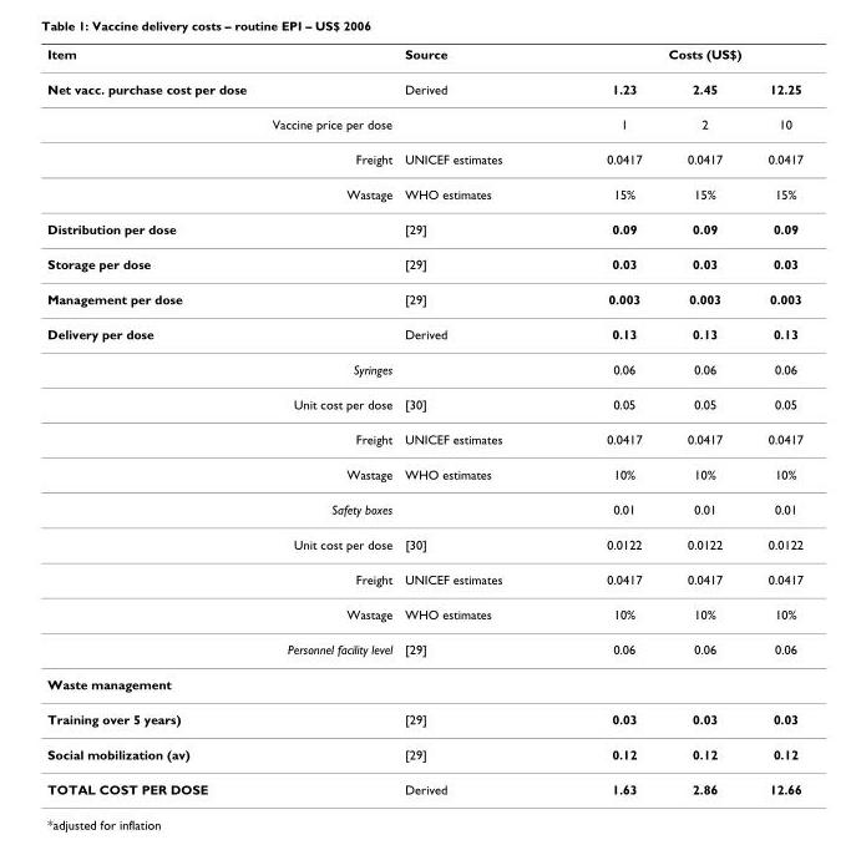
<table><thead><tr><td rowspan="2">Item Net vacc. purchase cost per dose</td><td rowspan="2">Source Derived</td><td colspan="3">Costs (US$)</td></tr><tr><td>1.23</td><td>2.45</td><td>12.25</td></tr></thead><tbody><tr><td>Vaccine price per dose</td><td></td><td>1</td><td>2</td><td>10</td></tr><tr><td>Freight</td><td>UNICEF estimates</td><td>0.0417</td><td>0.0417</td><td>0.0417</td></tr><tr><td>Wastage</td><td>WHO estimates</td><td>15%</td><td>15%</td><td>15%</td></tr><tr><td>Distribution per dose</td><td>[29]</td><td>0.09</td><td>0.09</td><td>0.09</td></tr><tr><td>Storage per dose</td><td>[29]</td><td>0.03</td><td>0.03</td><td>0.03</td></tr><tr><td>Management per dose</td><td>[29]</td><td>0.003</td><td>0.003</td><td>0.003</td></tr><tr><td>Delivery per dose</td><td>Derived</td><td>0.13</td><td>0.13</td><td>0.13</td></tr><tr><td>Syringes</td><td></td><td>0.06</td><td>0.06</td><td>0.06</td></tr><tr><td>Unit cost per dose</td><td>[30]</td><td>0.05</td><td>0.05</td><td>0.05</td></tr><tr><td>Freight</td><td>UNICEF estimates</td><td>0.0417</td><td>0.0417</td><td>0.0417</td></tr><tr><td>Wastage</td><td>WHO estimates</td><td>10%</td><td>10%</td><td>10%</td></tr><tr><td>Safety boxes</td><td></td><td>0.01</td><td>0.01</td><td>0.01</td></tr><tr><td>Unit cost per dose</td><td>[30]</td><td>0.0122</td><td>0.0122</td><td>0.0122</td></tr><tr><td>Freight</td><td>UNICEF estimates</td><td>0.0417</td><td>0.0417</td><td>0.0417</td></tr><tr><td>Wastage</td><td>WHO estimates</td><td>10%</td><td>10%</td><td>10%</td></tr><tr><td>Personnel facility level</td><td>[29]</td><td>0.06</td><td>0.06</td><td>0.06</td></tr><tr><td colspan="5">Waste management</td></tr><tr><td>Training over 5 years)</td><td>[29]</td><td>0.03</td><td>0.03</td><td>0.03</td></tr><tr><td>Social mobilization (av)</td><td>[29]</td><td>0.12</td><td>0.12</td><td>0.12</td></tr><tr><td>TOTAL COST PER DOSE</td><td>Derived</td><td>1.63</td><td>2.86</td><td>12.66</td></tr></tbody></table>